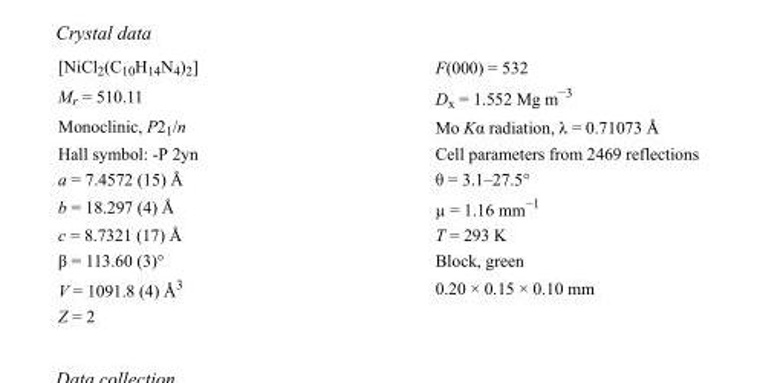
<table><tbody><tr><td>[NiCl<sub>2</sub>(C<sub>10</sub>H<sub>14</sub>N<sub>4</sub>)<sub>2</sub>]</td><td>F(000) = 532</td></tr><tr><td>M<sub>r</sub> = 510.11</td><td>D<sub>x</sub> = 1.552 Mg m<sup>−3</sup></td></tr><tr><td>Monoclinic, P2<sub>1</sub>/n</td><td>Mo Kα radiation, λ = 0.71073 Å</td></tr><tr><td>Hall symbol: -P 2yn</td><td>Cell parameters from 2469 reflections</td></tr><tr><td>a = 7.4572 (15) Å</td><td>θ = 3.1–27.5°</td></tr><tr><td>b = 18.297 (4) Å</td><td>µ = 1.16 mm<sup>−1</sup></td></tr><tr><td>c = 8.7321 (17) Å</td><td>T = 293 K</td></tr><tr><td>β = 113.60 (3)°</td><td>Block, green</td></tr><tr><td>V = 1091.8 (4) Å<sup>3</sup></td><td>0.20 × 0.15 × 0.10 mm</td></tr><tr><td>Z = 2</td><td></td></tr></tbody></table>